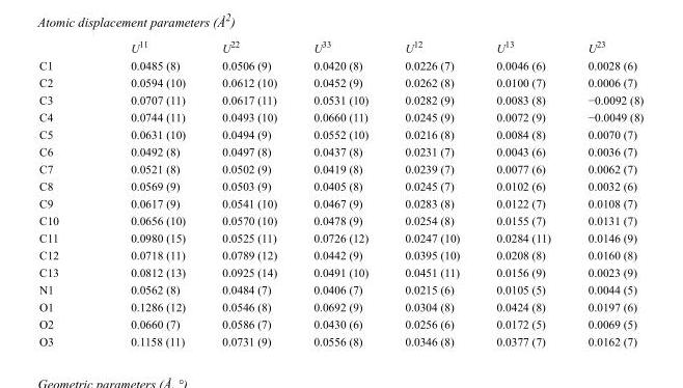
<table><thead><tr><td></td><td>U<sup>11</sup></td><td>U<sup>22</sup></td><td>U<sup>33</sup></td><td>U<sup>12</sup></td><td>U<sup>13</sup></td><td>U<sup>23</sup></td></tr></thead><tbody><tr><td>C1</td><td>0.0485 (8)</td><td>0.0506 (9)</td><td>0.0420 (8)</td><td>0.0226 (7)</td><td>0.0046 (6)</td><td>0.0028 (6)</td></tr><tr><td>C2</td><td>0.0594 (10)</td><td>0.0612 (10)</td><td>0.0452 (9)</td><td>0.0262 (8)</td><td>0.0100 (7)</td><td>0.0006 (7)</td></tr><tr><td>C3</td><td>0.0707 (11)</td><td>0.0617 (11)</td><td>0.0531 (10)</td><td>0.0282 (9)</td><td>0.0083 (8)</td><td>−0.0092 (8)</td></tr><tr><td>C4</td><td>0.0744 (11)</td><td>0.0493 (10)</td><td>0.0660 (11)</td><td>0.0245 (9)</td><td>0.0072 (9)</td><td>−0.0049 (8)</td></tr><tr><td>C5</td><td>0.0631 (10)</td><td>0.0494 (9)</td><td>0.0552 (10)</td><td>0.0216 (8)</td><td>0.0084 (8)</td><td>0.0070 (7)</td></tr><tr><td>C6</td><td>0.0492 (8)</td><td>0.0497 (8)</td><td>0.0437 (8)</td><td>0.0231 (7)</td><td>0.0043 (6)</td><td>0.0036 (7)</td></tr><tr><td>C7</td><td>0.0521 (8)</td><td>0.0502 (9)</td><td>0.0419 (8)</td><td>0.0239 (7)</td><td>0.0077 (6)</td><td>0.0062 (7)</td></tr><tr><td>C8</td><td>0.0569 (9)</td><td>0.0503 (9)</td><td>0.0405 (8)</td><td>0.0245 (7)</td><td>0.0102 (6)</td><td>0.0032 (6)</td></tr><tr><td>C9</td><td>0.0617 (9)</td><td>0.0541 (10)</td><td>0.0467 (9)</td><td>0.0283 (8)</td><td>0.0122 (7)</td><td>0.0108 (7)</td></tr><tr><td>C10</td><td>0.0656 (10)</td><td>0.0570 (10)</td><td>0.0478 (9)</td><td>0.0254 (8)</td><td>0.0155 (7)</td><td>0.0131 (7)</td></tr><tr><td>C11</td><td>0.0980 (15)</td><td>0.0525 (11)</td><td>0.0726 (12)</td><td>0.0247 (10)</td><td>0.0284 (11)</td><td>0.0146 (9)</td></tr><tr><td>C12</td><td>0.0718 (11)</td><td>0.0789 (12)</td><td>0.0442 (9)</td><td>0.0395 (10)</td><td>0.0208 (8)</td><td>0.0160 (8)</td></tr><tr><td>C13</td><td>0.0812 (13)</td><td>0.0925 (14)</td><td>0.0491 (10)</td><td>0.0451 (11)</td><td>0.0156 (9)</td><td>0.0023 (9)</td></tr><tr><td>N1</td><td>0.0562 (8)</td><td>0.0484 (7)</td><td>0.0406 (7)</td><td>0.0215 (6)</td><td>0.0105 (5)</td><td>0.0044 (5)</td></tr><tr><td>O1</td><td>0.1286 (12)</td><td>0.0546 (8)</td><td>0.0692 (9)</td><td>0.0304 (8)</td><td>0.0424 (8)</td><td>0.0197 (6)</td></tr><tr><td>O2</td><td>0.0660 (7)</td><td>0.0586 (7)</td><td>0.0430 (6)</td><td>0.0256 (6)</td><td>0.0172 (5)</td><td>0.0069 (5)</td></tr><tr><td>O3</td><td>0.1158 (11)</td><td>0.0731 (9)</td><td>0.0556 (8)</td><td>0.0346 (8)</td><td>0.0377 (7)</td><td>0.0162 (7)</td></tr></tbody></table>